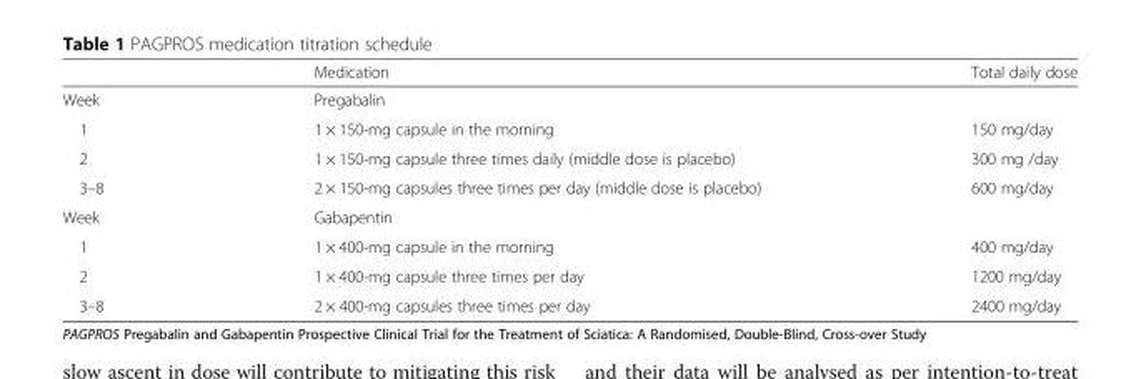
<table><thead><tr><td></td><td>Medication</td><td>Total daily dose</td></tr></thead><tbody><tr><td>Week</td><td>Pregabalin</td><td></td></tr><tr><td>1</td><td>1 × 150-mg capsule in the morning</td><td>150 mg/day</td></tr><tr><td>2</td><td>1 × 150-mg capsule three times daily (middle dose is placebo)</td><td>300 mg /day</td></tr><tr><td>3–8</td><td>2 × 150-mg capsules three times per day (middle dose is placebo)</td><td>600 mg/day</td></tr><tr><td>Week</td><td>Gabapentin</td><td></td></tr><tr><td>1</td><td>1 × 400-mg capsule in the morning</td><td>400 mg/day</td></tr><tr><td>2</td><td>1 × 400-mg capsule three times per day</td><td>1200 mg/day</td></tr><tr><td>3–8</td><td>2 × 400-mg capsules three times per day</td><td>2400 mg/day</td></tr></tbody></table>